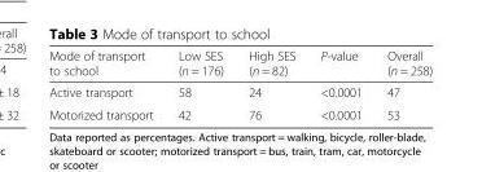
<table><thead><tr><td>Mode of transport to school</td><td>Low SES (n = 176)</td><td>High SES (n = 82)</td><td>P-value</td><td>Overall (n = 258)</td></tr></thead><tbody><tr><td>Active transport</td><td>58</td><td>24</td><td>&lt;0.0001</td><td>47</td></tr><tr><td>Motorized transport</td><td>42</td><td>76</td><td>&lt;0.0001</td><td>53</td></tr></tbody></table>